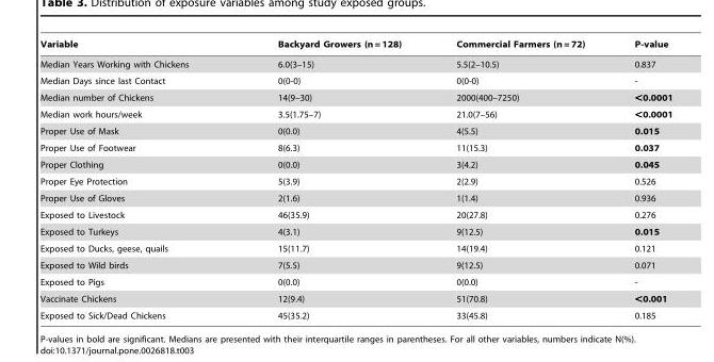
<table><thead><tr><td>Variable</td><td>Backyard Growers (n = 128)</td><td>Commercial Farmers (n = 72)</td><td>P-value</td></tr></thead><tbody><tr><td>Median Years Working with Chickens</td><td>6.0(3–15)</td><td>5.5(2–10.5)</td><td>0.837</td></tr><tr><td>Median Days since last Contact</td><td>0(0-0)</td><td>0(0-0)</td><td>-</td></tr><tr><td>Median number of Chickens</td><td>14(9–30)</td><td>2000(400–7250)</td><td>&lt;0.0001</td></tr><tr><td>Median work hours/week</td><td>3.5(1.75–7)</td><td>21.0(7–56)</td><td>&lt;0.0001</td></tr><tr><td>Proper Use of Mask</td><td>0(0.0)</td><td>4(5.5)</td><td>0.015</td></tr><tr><td>Proper Use of Footwear</td><td>8(6.3)</td><td>11(15.3)</td><td>0.037</td></tr><tr><td>Proper Clothing</td><td>0(0.0)</td><td>3(4.2)</td><td>0.045</td></tr><tr><td>Proper Eye Protection</td><td>5(3.9)</td><td>2(2.9)</td><td>0.526</td></tr><tr><td>Proper Use of Gloves</td><td>2(1.6)</td><td>1(1.4)</td><td>0.936</td></tr><tr><td>Exposed to Livestock</td><td>46(35.9)</td><td>20(27.8)</td><td>0.276</td></tr><tr><td>Exposed to Turkeys</td><td>4(3.1)</td><td>9(12.5)</td><td>0.015</td></tr><tr><td>Exposed to Ducks, geese, quails</td><td>15(11.7)</td><td>14(19.4)</td><td>0.121</td></tr><tr><td>Exposed to Wild birds</td><td>7(5.5)</td><td>9(12.5)</td><td>0.071</td></tr><tr><td>Exposed to Pigs</td><td>0(0.0)</td><td>0(0.0)</td><td>-</td></tr><tr><td>Vaccinate Chickens</td><td>12(9.4)</td><td>51(70.8)</td><td>&lt;0.001</td></tr><tr><td>Exposed to Sick/Dead Chickens</td><td>45(35.2)</td><td>33(45.8)</td><td>0.185</td></tr></tbody></table>